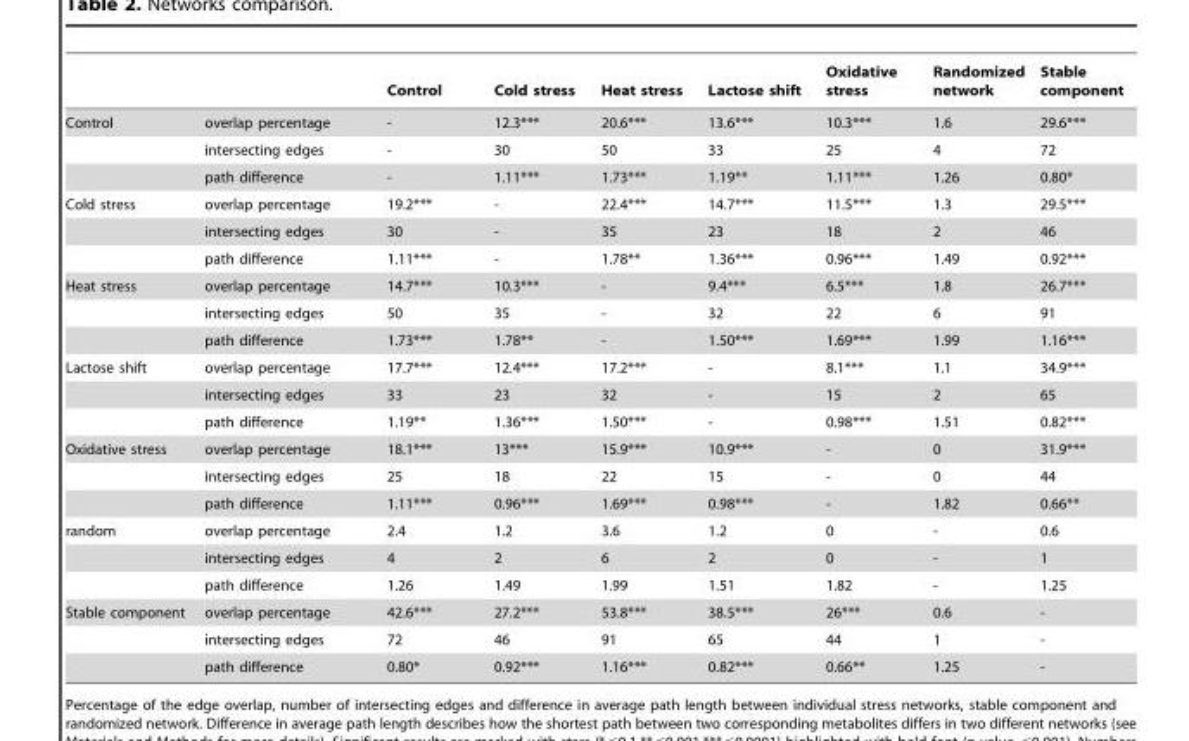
<table><thead><tr><td></td><td></td><td>Control</td><td>Cold stress</td><td>Heat stress</td><td>Lactose shift</td><td>Oxidative stress</td><td>Randomized network</td><td>Stable component</td></tr></thead><tbody><tr><td rowspan="3">Control</td><td>overlap percentage</td><td>-</td><td>12.3***</td><td>20.6***</td><td>13.6***</td><td>10.3***</td><td>1.6</td><td>29.6***</td></tr><tr><td>intersecting edges</td><td>-</td><td>30</td><td>50</td><td>33</td><td>25</td><td>4</td><td>72</td></tr><tr><td>path difference</td><td>-</td><td>1.11***</td><td>1.73***</td><td>1.19**</td><td>1.11***</td><td>1.26</td><td>0.80*</td></tr><tr><td rowspan="3">Cold stress</td><td>overlap percentage</td><td>19.2***</td><td>-</td><td>22.4***</td><td>14.7***</td><td>11.5***</td><td>1.3</td><td>29.5***</td></tr><tr><td>intersecting edges</td><td>30</td><td>-</td><td>35</td><td>23</td><td>18</td><td>2</td><td>46</td></tr><tr><td>path difference</td><td>1.11***</td><td>-</td><td>1.78**</td><td>1.36***</td><td>0.96***</td><td>1.49</td><td>0.92***</td></tr><tr><td rowspan="3">Heat stress</td><td>overlap percentage</td><td>14.7***</td><td>10.3***</td><td>-</td><td>9.4***</td><td>6.5***</td><td>1.8</td><td>26.7***</td></tr><tr><td>intersecting edges</td><td>50</td><td>35</td><td>-</td><td>32</td><td>22</td><td>6</td><td>91</td></tr><tr><td>path difference</td><td>1.73***</td><td>1.78**</td><td>-</td><td>1.50***</td><td>1.69***</td><td>1.99</td><td>1.16***</td></tr><tr><td rowspan="3">Lactose shift</td><td>overlap percentage</td><td>17.7***</td><td>12.4***</td><td>17.2***</td><td>-</td><td>8.1***</td><td>1.1</td><td>34.9***</td></tr><tr><td>intersecting edges</td><td>33</td><td>23</td><td>32</td><td>-</td><td>15</td><td>2</td><td>65</td></tr><tr><td>path difference</td><td>1.19**</td><td>1.36***</td><td>1.50***</td><td>-</td><td>0.98***</td><td>1.51</td><td>0.82***</td></tr><tr><td rowspan="3">Oxidative stress</td><td>overlap percentage</td><td>18.1***</td><td>13***</td><td>15.9***</td><td>10.9***</td><td>-</td><td>0</td><td>31.9***</td></tr><tr><td>intersecting edges</td><td>25</td><td>18</td><td>22</td><td>15</td><td>-</td><td>0</td><td>44</td></tr><tr><td>path difference</td><td>1.11***</td><td>0.96***</td><td>1.69***</td><td>0.98***</td><td>-</td><td>1.82</td><td>0.66**</td></tr><tr><td rowspan="3">random</td><td>overlap percentage</td><td>2.4</td><td>1.2</td><td>3.6</td><td>1.2</td><td>0</td><td>-</td><td>0.6</td></tr><tr><td>intersecting edges</td><td>4</td><td>2</td><td>6</td><td>2</td><td>0</td><td>-</td><td>1</td></tr><tr><td>path difference</td><td>1.26</td><td>1.49</td><td>1.99</td><td>1.51</td><td>1.82</td><td>-</td><td>1.25</td></tr><tr><td rowspan="3">Stable component</td><td>overlap percentage</td><td>42.6***</td><td>27.2***</td><td>53.8***</td><td>38.5***</td><td>26***</td><td>0.6</td><td>-</td></tr><tr><td>intersecting edges</td><td>72</td><td>46</td><td>91</td><td>65</td><td>44</td><td>1</td><td>-</td></tr><tr><td>path difference</td><td>0.80*</td><td>0.92***</td><td>1.16***</td><td>0.82***</td><td>0.66**</td><td>1.25</td><td>-</td></tr></tbody></table>